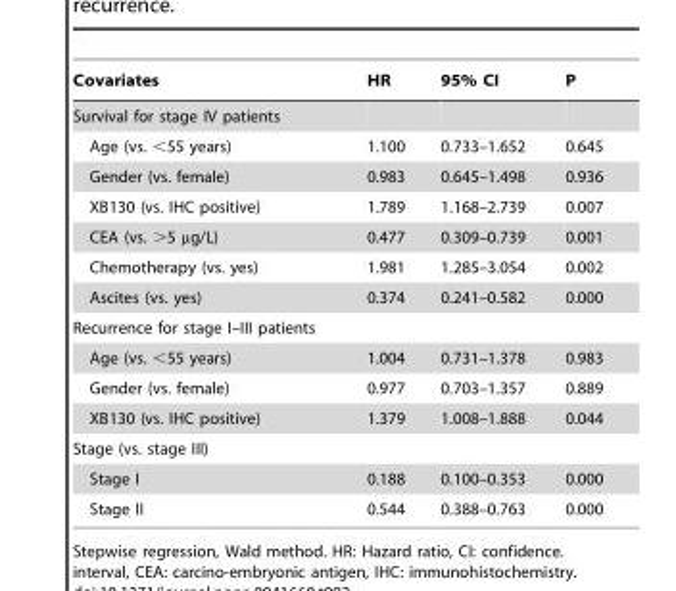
<table><thead><tr><td>Covariates</td><td>HR</td><td>95% CI</td><td>P</td></tr></thead><tbody><tr><td colspan="4">Survival for stage IV patients</td></tr><tr><td>Age (vs. &lt;55 years)</td><td>1.100</td><td>0.733–1.652</td><td>0.645</td></tr><tr><td>Gender (vs. female)</td><td>0.983</td><td>0.645–1.498</td><td>0.936</td></tr><tr><td>XB130 (vs. IHC positive)</td><td>1.789</td><td>1.168–2.739</td><td>0.007</td></tr><tr><td>CEA (vs. &gt;5 µg/L)</td><td>0.477</td><td>0.309–0.739</td><td>0.001</td></tr><tr><td>Chemotherapy (vs. yes)</td><td>1.981</td><td>1.285–3.054</td><td>0.002</td></tr><tr><td>Ascites (vs. yes)</td><td>0.374</td><td>0.241–0.582</td><td>0.000</td></tr><tr><td colspan="4">Recurrence for stage I–III patients</td></tr><tr><td>Age (vs. &lt;55 years)</td><td>1.004</td><td>0.731–1.378</td><td>0.983</td></tr><tr><td>Gender (vs. female)</td><td>0.977</td><td>0.703–1.357</td><td>0.889</td></tr><tr><td>XB130 (vs. IHC positive)</td><td>1.379</td><td>1.008–1.888</td><td>0.044</td></tr><tr><td colspan="4">Stage (vs. stage III)</td></tr><tr><td>Stage I</td><td>0.188</td><td>0.100–0.353</td><td>0.000</td></tr><tr><td>Stage II</td><td>0.544</td><td>0.388–0.763</td><td>0.000</td></tr></tbody></table>